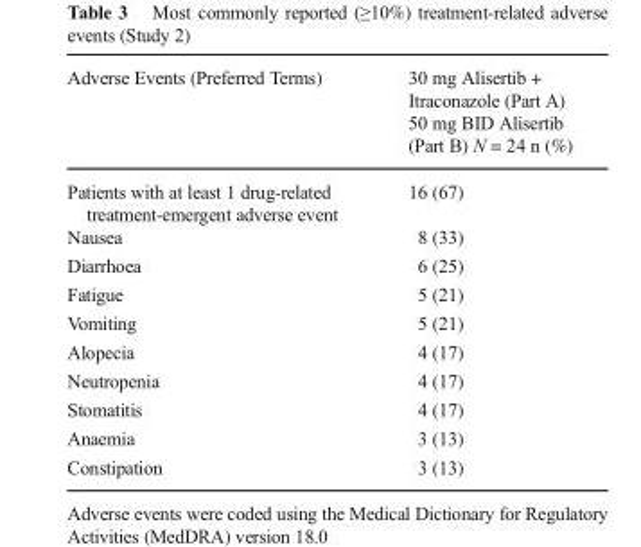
<table><thead><tr><td>Adverse Events (Preferred Terms)</td><td>30 mg Alisertib + Itraconazole (Part A) 50 mg BID Alisertib (Part B) N = 24 n (%)</td></tr></thead><tbody><tr><td>Patients with at least 1 drug-related treatment-emergent adverse event</td><td>16 (67)</td></tr><tr><td>Nausea</td><td>8 (33)</td></tr><tr><td>Diarrhoea</td><td>6 (25)</td></tr><tr><td>Fatigue</td><td>5 (21)</td></tr><tr><td>Vomiting</td><td>5 (21)</td></tr><tr><td>Alopecia</td><td>4 (17)</td></tr><tr><td>Neutropenia</td><td>4 (17)</td></tr><tr><td>Stomatitis</td><td>4 (17)</td></tr><tr><td>Anaemia</td><td>3 (13)</td></tr><tr><td>Constipation</td><td>3 (13)</td></tr></tbody></table>